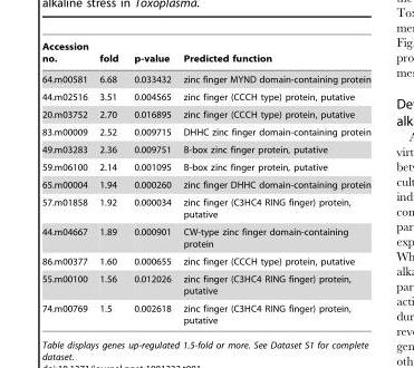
<table><thead><tr><td>Accession no.</td><td>fold</td><td>p-value</td><td>Predicted function</td></tr></thead><tbody><tr><td>64.m00581</td><td>6.68</td><td>0.033432</td><td>zinc finger MYND domain-containing protein</td></tr><tr><td>44.m02516</td><td>3.51</td><td>0.004565</td><td>zinc finger (CCCH type) protein, putative</td></tr><tr><td>20.m03752</td><td>2.70</td><td>0.016895</td><td>zinc finger (CCCH type) protein, putative</td></tr><tr><td>83.m00009</td><td>2.52</td><td>0.009715</td><td>DHHC zinc finger domain-containing protein</td></tr><tr><td>49.m03283</td><td>2.36</td><td>0.009751</td><td>B-box zinc finger protein, putative</td></tr><tr><td>59.m06100</td><td>2.14</td><td>0.001095</td><td>B-box zinc finger protein, putative</td></tr><tr><td>65.m00004</td><td>1.94</td><td>0.000260</td><td>zinc finger DHHC domain-containing protein</td></tr><tr><td>57.m01858</td><td>1.92</td><td>0.000034</td><td>zinc finger (C3HC4 RING finger) protein, putative</td></tr><tr><td>44.m04667</td><td>1.89</td><td>0.000901</td><td>CW-type zinc finger domain-containing protein</td></tr><tr><td>86.m00377</td><td>1.60</td><td>0.000655</td><td>zinc finger (CCCH type) protein, putative</td></tr><tr><td>55.m00100</td><td>1.56</td><td>0.012026</td><td>zinc finger (C3HC4 RING finger) protein, putative</td></tr><tr><td>74.m00769</td><td>1.5</td><td>0.002618</td><td>zinc finger (C3HC4 RING finger) protein, putative</td></tr></tbody></table>